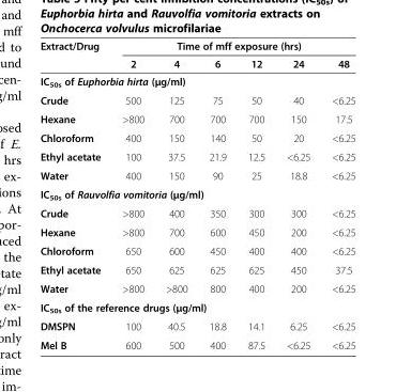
<table><thead><tr><td rowspan="2">Extract/Drug</td><td colspan="6">Time of mff exposure (hrs)</td></tr><tr><td>2</td><td>4</td><td>6</td><td>12</td><td>24</td><td>48</td></tr></thead><tbody><tr><td colspan="7">IC<sub>50s</sub> of Euphorbia hirta (μg/ml)</td></tr><tr><td>Crude</td><td>500</td><td>125</td><td>75</td><td>50</td><td>40</td><td>&lt;6.25</td></tr><tr><td>Hexane</td><td>&gt;800</td><td>700</td><td>700</td><td>700</td><td>150</td><td>17.5</td></tr><tr><td>Chloroform</td><td>400</td><td>150</td><td>140</td><td>50</td><td>20</td><td>&lt;6.25</td></tr><tr><td>Ethyl acetate</td><td>100</td><td>37.5</td><td>21.9</td><td>12.5</td><td>&lt;6.25</td><td>&lt;6.25</td></tr><tr><td>Water</td><td>400</td><td>150</td><td>90</td><td>25</td><td>18.8</td><td>&lt;6.25</td></tr><tr><td colspan="7">IC<sub>50s</sub> of Rauvolfia vomitoria (μg/ml)</td></tr><tr><td>Crude</td><td>&gt;800</td><td>400</td><td>350</td><td>300</td><td>300</td><td>&lt;6.25</td></tr><tr><td>Hexane</td><td>&gt;800</td><td>700</td><td>600</td><td>450</td><td>200</td><td>&lt;6.25</td></tr><tr><td>Chloroform</td><td>650</td><td>600</td><td>450</td><td>400</td><td>400</td><td>&lt;6.25</td></tr><tr><td>Ethyl acetate</td><td>650</td><td>625</td><td>625</td><td>625</td><td>450</td><td>37.5</td></tr><tr><td>Water</td><td>&gt;800</td><td>&gt;800</td><td>800</td><td>400</td><td>200</td><td>&lt;6.25</td></tr><tr><td colspan="7">IC<sub>50s</sub> of the reference drugs (μg/ml)</td></tr><tr><td>DMSPN</td><td>100</td><td>40.5</td><td>18.8</td><td>14.1</td><td>6.25</td><td>&lt;6.25</td></tr><tr><td>Mel B</td><td>600</td><td>500</td><td>400</td><td>87.5</td><td>&lt;6.25</td><td>&lt;6.25</td></tr></tbody></table>